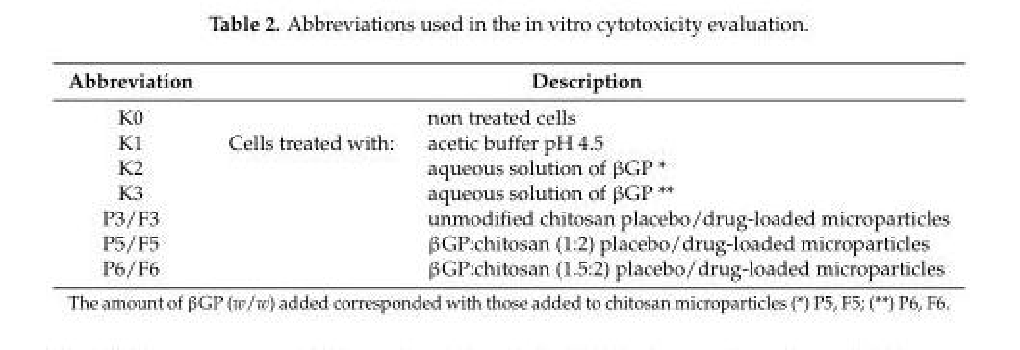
<table><thead><tr><td rowspan="2">Abbreviation K0</td><td colspan="2">Description</td></tr><tr><td></td><td>non treated cells</td></tr></thead><tbody><tr><td>K1</td><td>Cells treated with:</td><td>acetic buffer pH 4.5</td></tr><tr><td>K2</td><td></td><td>aqueous solution of βGP *</td></tr><tr><td>K3</td><td rowspan="4"></td><td>aqueous solution of βGP **</td></tr><tr><td>P3/F3</td><td>unmodified chitosan placebo/drug-loaded microparticles</td></tr><tr><td>P5/F5</td><td>βGP:chitosan (1:2) placebo/drug-loaded microparticles</td></tr><tr><td>P6/F6</td><td>βGP:chitosan (1.5:2) placebo/drug-loaded microparticles</td></tr></tbody></table>